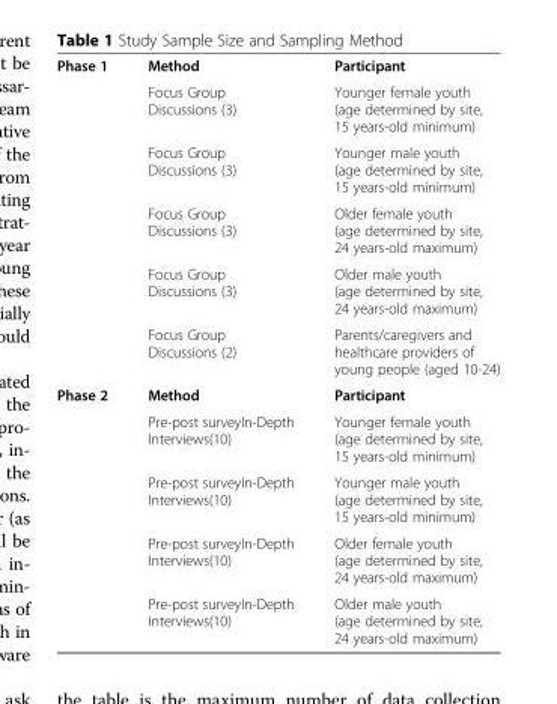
<table><tbody><tr><td rowspan="6">Phase 1</td><td>Method</td><td>Participant</td></tr><tr><td>Focus Group Discussions (3)</td><td>Younger female youth (age determined by site, 15 years-old minimum)</td></tr><tr><td>Focus Group Discussions (3)</td><td>Younger male youth (age determined by site, 15 years-old minimum)</td></tr><tr><td>Focus Group Discussions (3)</td><td>Older female youth (age determined by site, 24 years-old maximum)</td></tr><tr><td>Focus Group Discussions (3)</td><td>Older male youth (age determined by site, 24 years-old maximum)</td></tr><tr><td>Focus Group Discussions (2)</td><td>Parents/caregivers and healthcare providers of young people (aged 10-24)</td></tr><tr><td rowspan="5">Phase 2</td><td>Method</td><td>Participant</td></tr><tr><td>Pre-post surveyIn-Depth Interviews(10)</td><td>Younger female youth (age determined by site, 15 years-old minimum)</td></tr><tr><td>Pre-post surveyIn-Depth Interviews(10)</td><td>Younger male youth (age determined by site, 15 years-old minimum)</td></tr><tr><td>Pre-post surveyIn-Depth Interviews(10)</td><td>Older female youth (age determined by site, 24 years-old maximum)</td></tr><tr><td>Pre-post surveyIn-Depth Interviews(10)</td><td>Older male youth (age determined by site, 24 years-old maximum)</td></tr></tbody></table>